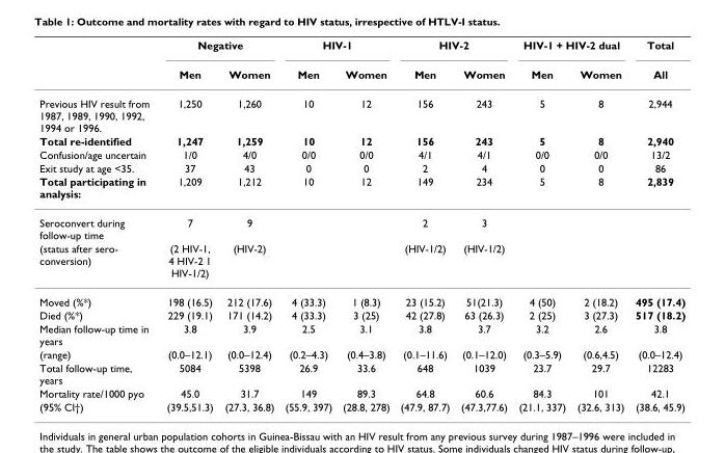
<table><thead><tr><td rowspan="2"></td><td colspan="2">Negative</td><td colspan="2">HIV-1</td><td colspan="2">HIV-2</td><td colspan="2">HIV-1 + HIV-2 dual</td><td rowspan="2">Total All</td></tr><tr><td>Men</td><td>Women</td><td>Men</td><td>Women</td><td>Men</td><td>Women</td><td>Men</td><td>Women</td></tr></thead><tbody><tr><td>Previous HIV result from 1987, 1989, 1990, 1992, 1994 or 1996.</td><td>1,250</td><td>1,260</td><td>10</td><td>12</td><td>156</td><td>243</td><td>5</td><td>8</td><td>2,944</td></tr><tr><td>Total re-identified</td><td>1,247</td><td>1,259</td><td>10</td><td>12</td><td>156</td><td>243</td><td>5</td><td>8</td><td>2,940</td></tr><tr><td>Confusion/age uncertain</td><td>1/0</td><td>4/0</td><td>0/0</td><td>0/0</td><td>4/1</td><td>4/1</td><td>0/0</td><td>0/0</td><td>13/2</td></tr><tr><td>Exit study at age &lt;35.</td><td>37</td><td>43</td><td>0</td><td>0</td><td>2</td><td>4</td><td>0</td><td>0</td><td>86</td></tr><tr><td>Total participating in analysis:</td><td>1,209</td><td>1,212</td><td>10</td><td>12</td><td>149</td><td>234</td><td>5</td><td>8</td><td>2,839</td></tr><tr><td>Seroconvert during follow-up time</td><td>7</td><td>9</td><td></td><td></td><td>2</td><td>3</td><td></td><td></td><td></td></tr><tr><td>(status after sero- conversion)</td><td>(2 HIV-1, 4 HIV-2 1 HIV-1/2)</td><td>(HIV-2)</td><td></td><td></td><td>(HIV-1/2)</td><td>(HIV-1/2)</td><td></td><td></td><td></td></tr><tr><td>Moved (%*)</td><td>198 (16.5)</td><td>212 (17.6)</td><td>4 (33.3)</td><td>1 (8.3)</td><td>23 (15.2)</td><td>51(21.3)</td><td>4 (50)</td><td>2 (18.2)</td><td>495 (17.4)</td></tr><tr><td>Died (%*)</td><td>229 (19.1)</td><td>171 (14.2)</td><td>4 (33.3)</td><td>3 (25)</td><td>42 (27.8)</td><td>63 (26.3)</td><td>2 (25)</td><td>3 (27.3)</td><td>517 (18.2)</td></tr><tr><td>Median follow-up time in years</td><td>3.8</td><td>3.9</td><td>2.5</td><td>3.1</td><td>3.8</td><td>3.7</td><td>3.2</td><td>2.6</td><td>3.8</td></tr><tr><td>(range)</td><td>(0.0–12.1)</td><td>(0.0–12.4)</td><td>(0.2–4.3)</td><td>(0.4–3.8)</td><td>(0.1–11.6)</td><td>(0.1–12.0)</td><td>(0.3–5.9)</td><td>(0.6,4.5)</td><td>(0.0–12.4)</td></tr><tr><td>Total follow-up time, years</td><td>5084</td><td>5398</td><td>26.9</td><td>33.6</td><td>648</td><td>1039</td><td>23.7</td><td>29.7</td><td>12283</td></tr><tr><td>Mortality rate/1000 pyo</td><td>45.0</td><td>31.7</td><td>149</td><td>89.3</td><td>64.8</td><td>60.6</td><td>84.3</td><td>101</td><td>42.1</td></tr><tr><td>(95% CI†)</td><td>(39.5,51.3)</td><td>(27.3, 36.8)</td><td>(55.9, 397)</td><td>(28.8, 278)</td><td>(47.9, 87.7)</td><td>(47.3,77.6)</td><td>(21.1, 337)</td><td>(32.6, 313)</td><td>(38.6, 45.9)</td></tr></tbody></table>